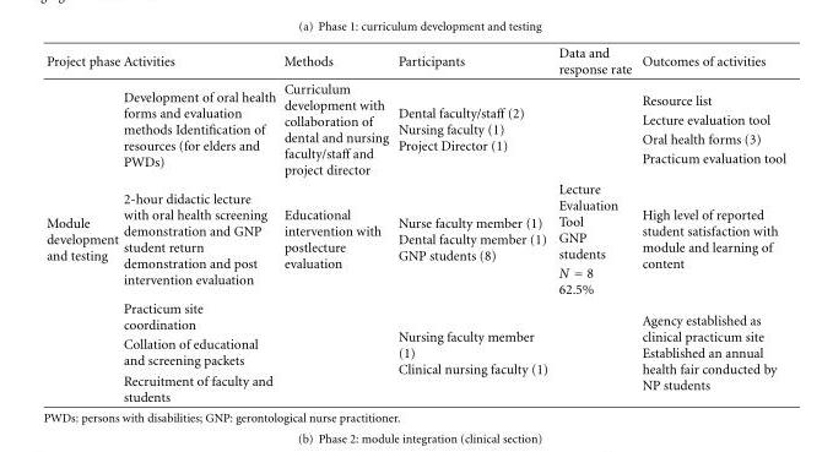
<table><thead><tr><td>Project phase</td><td>Activities</td><td>Methods</td><td>Participants</td><td>Data and response rate</td><td>Outcomes of activities</td></tr></thead><tbody><tr><td></td><td>Development of oral health forms and evaluation methods Identification of resources (for elders and PWDs)</td><td>Curriculum development with collaboration of dental and nursing faculty/staff and project director</td><td>Dental faculty/staff (2) Nursing faculty (1) Project Director (1)</td><td></td><td>Resource list Lecture evaluation tool Oral health forms (3) Practicum evaluation tool</td></tr><tr><td rowspan="2">Module development and testing</td><td>2-hour didactic lecture with oral health screening demonstration and GNP student return demonstration and post intervention evaluation</td><td>Educational intervention with postlecture evaluation</td><td>Nurse faculty member (1) Dental faculty member (1) GNP students (8)</td><td>Lecture Evaluation Tool GNP students N = 8 62.5%</td><td>High level of reported student satisfaction with module and learning of content</td></tr><tr><td>Practicum site coordination Collation of educational and screening packets Recruitment of faculty and students</td><td></td><td>Nursing faculty member (1) Clinical nursing faculty (1)</td><td></td><td>Agency established as clinical practicum site Established an annual health fair conducted by NP students</td></tr></tbody></table>